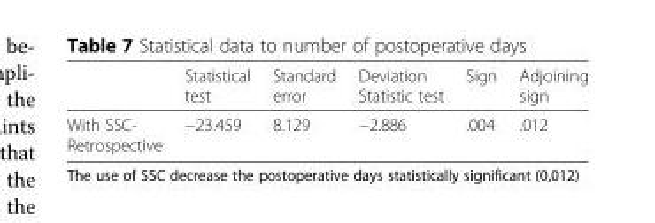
<table><thead><tr><td></td><td>Statistical test</td><td>Standard error</td><td>Deviation Statistic test</td><td>Sign</td><td>Adjoining sign</td></tr></thead><tbody><tr><td>With SSC- Retrospective</td><td>−23.459</td><td>8.129</td><td>−2.886</td><td>.004</td><td>.012</td></tr></tbody></table>